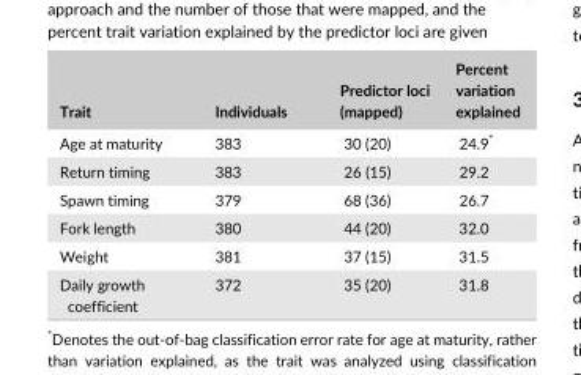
<table><thead><tr><td>Trait</td><td>Individuals</td><td>Predictor loci (mapped)</td><td>Percent variation explained</td></tr></thead><tbody><tr><td>Age at maturity</td><td>383</td><td>30 (20)</td><td>24.9*</td></tr><tr><td>Return timing</td><td>383</td><td>26 (15)</td><td>29.2</td></tr><tr><td>Spawn timing</td><td>379</td><td>68 (36)</td><td>26.7</td></tr><tr><td>Fork length</td><td>380</td><td>44 (20)</td><td>32.0</td></tr><tr><td>Weight</td><td>381</td><td>37 (15)</td><td>31.5</td></tr><tr><td>Daily growth coefficient</td><td>372</td><td>35 (20)</td><td>31.8</td></tr></tbody></table>